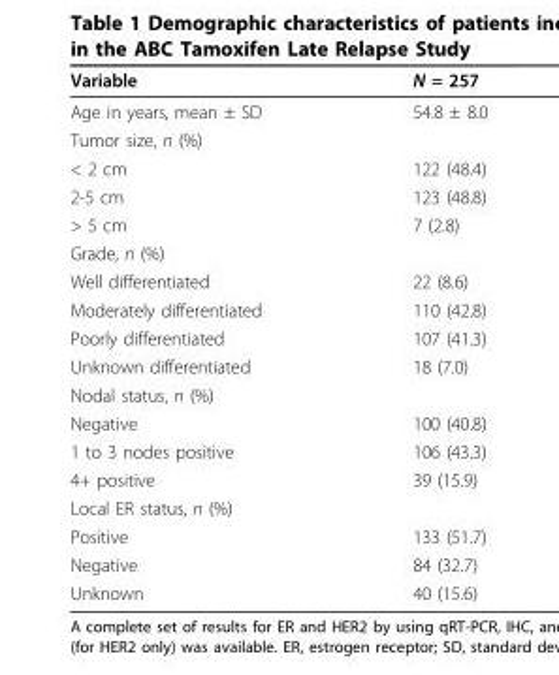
<table><thead><tr><td>Variable</td><td>N = 257</td></tr></thead><tbody><tr><td>Age in years, mean ± SD</td><td>54.8 ± 8.0</td></tr><tr><td colspan="2">Tumor size, n (%)</td></tr><tr><td>&lt; 2 cm</td><td>122 (48.4)</td></tr><tr><td>2-5 cm</td><td>123 (48.8)</td></tr><tr><td>&gt; 5 cm</td><td>7 (2.8)</td></tr><tr><td colspan="2">Grade, n (%)</td></tr><tr><td>Well differentiated</td><td>22 (8.6)</td></tr><tr><td>Moderately differentiated</td><td>110 (42.8)</td></tr><tr><td>Poorly differentiated</td><td>107 (41.3)</td></tr><tr><td>Unknown differentiated</td><td>18 (7.0)</td></tr><tr><td colspan="2">Nodal status, n (%)</td></tr><tr><td>Negative</td><td>100 (40.8)</td></tr><tr><td>1 to 3 nodes positive</td><td>106 (43.3)</td></tr><tr><td>4+ positive</td><td>39 (15.9)</td></tr><tr><td colspan="2">Local ER status, n (%)</td></tr><tr><td>Positive</td><td>133 (51.7)</td></tr><tr><td>Negative</td><td>84 (32.7)</td></tr><tr><td>Unknown</td><td>40 (15.6)</td></tr></tbody></table>